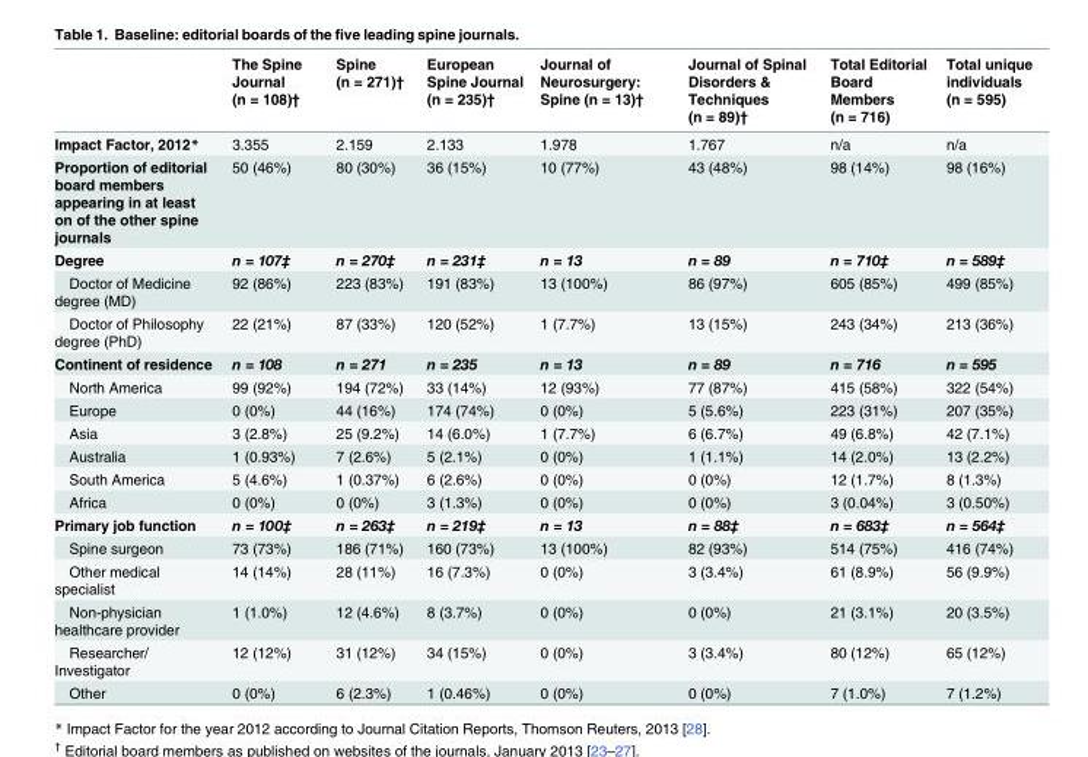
<table><thead><tr><td></td><td>The Spine Journal (n = 108)†</td><td>Spine (n = 271)†</td><td>European Spine Journal (n = 235)†</td><td>Journal of Neurosurgery: Spine (n = 13)†</td><td>Journal of Spinal Disorders &amp; Techniques (n = 89)†</td><td>Total Editorial Board Members (n = 716)</td><td>Total unique individuals (n = 595)</td></tr></thead><tbody><tr><td>Impact Factor, 2012*</td><td>3.355</td><td>2.159</td><td>2.133</td><td>1.978</td><td>1.767</td><td>n/a</td><td>n/a</td></tr><tr><td>Proportion of editorial board members appearing in at least on of the other spine journals</td><td>50 (46%)</td><td>80 (30%)</td><td>36 (15%)</td><td>10 (77%)</td><td>43 (48%)</td><td>98 (14%)</td><td>98 (16%)</td></tr><tr><td>Degree</td><td>n = 107‡</td><td>n = 270‡</td><td>n = 231‡</td><td>n = 13</td><td>n = 89</td><td>n = 710‡</td><td>n = 589‡</td></tr><tr><td>Doctor of Medicine degree (MD)</td><td>92 (86%)</td><td>223 (83%)</td><td>191 (83%)</td><td>13 (100%)</td><td>86 (97%)</td><td>605 (85%)</td><td>499 (85%)</td></tr><tr><td>Doctor of Philosophy degree (PhD)</td><td>22 (21%)</td><td>87 (33%)</td><td>120 (52%)</td><td>1 (7.7%)</td><td>13 (15%)</td><td>243 (34%)</td><td>213 (36%)</td></tr><tr><td>Continent of residence</td><td>n = 108</td><td>n = 271</td><td>n = 235</td><td>n = 13</td><td>n = 89</td><td>n = 716</td><td>n = 595</td></tr><tr><td>North America</td><td>99 (92%)</td><td>194 (72%)</td><td>33 (14%)</td><td>12 (93%)</td><td>77 (87%)</td><td>415 (58%)</td><td>322 (54%)</td></tr><tr><td>Europe</td><td>0 (0%)</td><td>44 (16%)</td><td>174 (74%)</td><td>0 (0%)</td><td>5 (5.6%)</td><td>223 (31%)</td><td>207 (35%)</td></tr><tr><td>Asia</td><td>3 (2.8%)</td><td>25 (9.2%)</td><td>14 (6.0%)</td><td>1 (7.7%)</td><td>6 (6.7%)</td><td>49 (6.8%)</td><td>42 (7.1%)</td></tr><tr><td>Australia</td><td>1 (0.93%)</td><td>7 (2.6%)</td><td>5 (2.1%)</td><td>0 (0%)</td><td>1 (1.1%)</td><td>14 (2.0%)</td><td>13 (2.2%)</td></tr><tr><td>South America</td><td>5 (4.6%)</td><td>1 (0.37%)</td><td>6 (2.6%)</td><td>0 (0%)</td><td>0 (0%)</td><td>12 (1.7%)</td><td>8 (1.3%)</td></tr><tr><td>Africa</td><td>0 (0%)</td><td>0 (0%)</td><td>3 (1.3%)</td><td>0 (0%)</td><td>0 (0%)</td><td>3 (0.04%)</td><td>3 (0.50%)</td></tr><tr><td>Primary job function</td><td>n = 100‡</td><td>n = 263‡</td><td>n = 219‡</td><td>n = 13</td><td>n = 88‡</td><td>n = 683‡</td><td>n = 564‡</td></tr><tr><td>Spine surgeon</td><td>73 (73%)</td><td>186 (71%)</td><td>160 (73%)</td><td>13 (100%)</td><td>82 (93%)</td><td>514 (75%)</td><td>416 (74%)</td></tr><tr><td>Other medical specialist</td><td>14 (14%)</td><td>28 (11%)</td><td>16 (7.3%)</td><td>0 (0%)</td><td>3 (3.4%)</td><td>61 (8.9%)</td><td>56 (9.9%)</td></tr><tr><td>Non-physician healthcare provider</td><td>1 (1.0%)</td><td>12 (4.6%)</td><td>8 (3.7%)</td><td>0 (0%)</td><td>0 (0%)</td><td>21 (3.1%)</td><td>20 (3.5%)</td></tr><tr><td>Researcher/ Investigator</td><td>12 (12%)</td><td>31 (12%)</td><td>34 (15%)</td><td>0 (0%)</td><td>3 (3.4%)</td><td>80 (12%)</td><td>65 (12%)</td></tr><tr><td>Other</td><td>0 (0%)</td><td>6 (2.3%)</td><td>1 (0.46%)</td><td>0 (0%)</td><td>0 (0%)</td><td>7 (1.0%)</td><td>7 (1.2%)</td></tr></tbody></table>